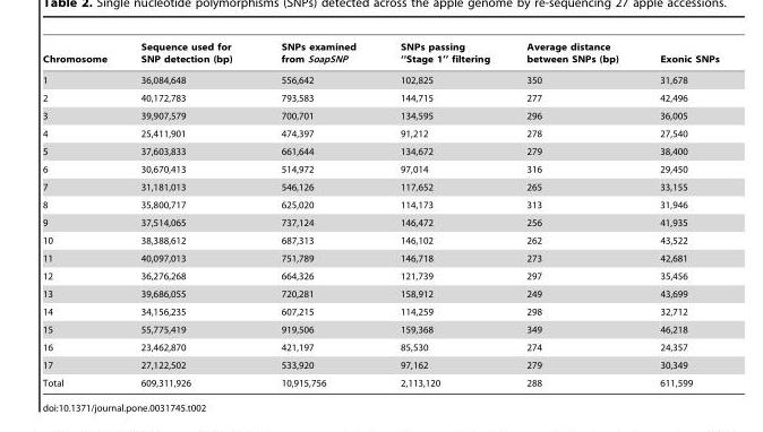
<table><thead><tr><td>Chromosome</td><td>Sequence used for SNP detection (bp)</td><td>SNPs examined from SoapSNP</td><td>SNPs passing ‘‘Stage 1’’ filtering</td><td>Average distance between SNPs (bp)</td><td>Exonic SNPs</td></tr></thead><tbody><tr><td>1</td><td>36,084,648</td><td>556,642</td><td>102,825</td><td>350</td><td>31,678</td></tr><tr><td>2</td><td>40,172,783</td><td>793,583</td><td>144,715</td><td>277</td><td>42,496</td></tr><tr><td>3</td><td>39,907,579</td><td>700,701</td><td>134,595</td><td>296</td><td>36,005</td></tr><tr><td>4</td><td>25,411,901</td><td>474,397</td><td>91,212</td><td>278</td><td>27,540</td></tr><tr><td>5</td><td>37,603,833</td><td>661,644</td><td>134,672</td><td>279</td><td>38,400</td></tr><tr><td>6</td><td>30,670,413</td><td>514,972</td><td>97,014</td><td>316</td><td>29,450</td></tr><tr><td>7</td><td>31,181,013</td><td>546,126</td><td>117,652</td><td>265</td><td>33,155</td></tr><tr><td>8</td><td>35,800,717</td><td>625,020</td><td>114,173</td><td>313</td><td>31,946</td></tr><tr><td>9</td><td>37,514,065</td><td>737,124</td><td>146,472</td><td>256</td><td>41,935</td></tr><tr><td>10</td><td>38,388,612</td><td>687,313</td><td>146,102</td><td>262</td><td>43,522</td></tr><tr><td>11</td><td>40,097,013</td><td>751,789</td><td>146,718</td><td>273</td><td>42,681</td></tr><tr><td>12</td><td>36,276,268</td><td>664,326</td><td>121,739</td><td>297</td><td>35,456</td></tr><tr><td>13</td><td>39,686,055</td><td>720,281</td><td>158,912</td><td>249</td><td>43,699</td></tr><tr><td>14</td><td>34,156,235</td><td>607,215</td><td>114,259</td><td>298</td><td>32,712</td></tr><tr><td>15</td><td>55,775,419</td><td>919,506</td><td>159,368</td><td>349</td><td>46,218</td></tr><tr><td>16</td><td>23,462,870</td><td>421,197</td><td>85,530</td><td>274</td><td>24,357</td></tr><tr><td>17</td><td>27,122,502</td><td>533,920</td><td>97,162</td><td>279</td><td>30,349</td></tr><tr><td>Total</td><td>609,311,926</td><td>10,915,756</td><td>2,113,120</td><td>288</td><td>611,599</td></tr></tbody></table>